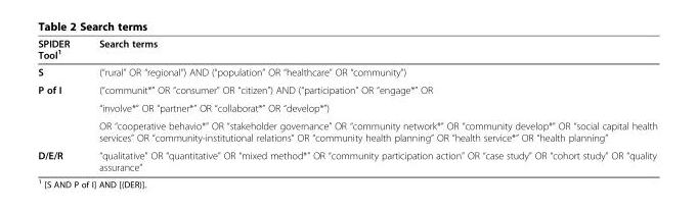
<table><thead><tr><td>SPIDER Tool<sup>1</sup></td><td>Search terms</td></tr></thead><tbody><tr><td>S</td><td>(“rural” OR “regional”) AND (“population” OR “healthcare” OR “community”)</td></tr><tr><td rowspan="3">P of I</td><td>(“communit*” OR “consumer” OR “citizen”) AND (“participation” OR “engage*” OR</td></tr><tr><td>“involve*” OR “partner*” OR “collaborat*” OR “develop*”)</td></tr><tr><td>OR “cooperative behavio*” OR “stakeholder governance” OR “community network*” OR “community develop*” OR “social capital health services” OR “community-institutional relations” OR “community health planning” OR “health service*” OR “health planning”</td></tr><tr><td>D/E/R</td><td>“qualitative” OR “quantitative” OR “mixed method*” OR “community participation action” OR “case study” OR “cohort study” OR “quality assurance”</td></tr></tbody></table>